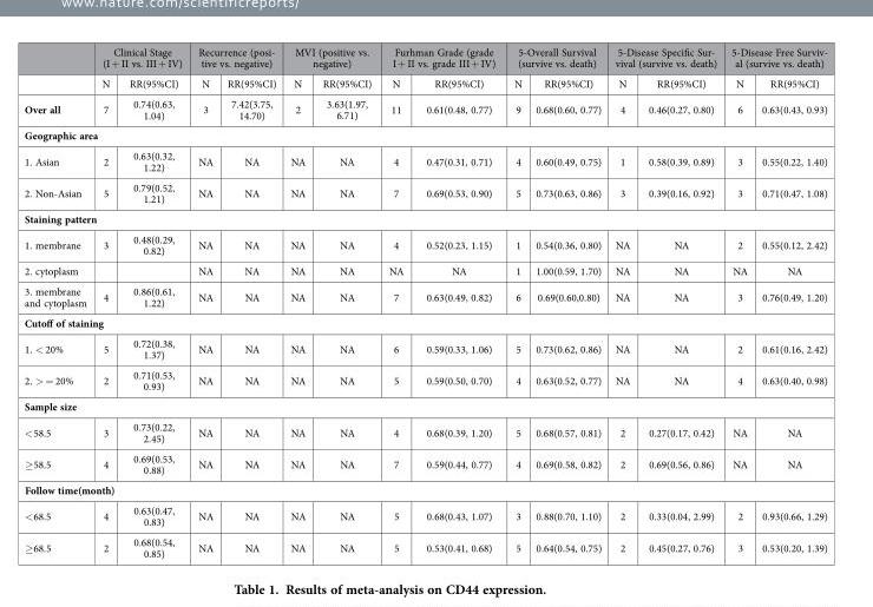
<table><thead><tr><td rowspan="2"></td><td colspan="2">Clinical Stage (I + II vs. III + IV)</td><td colspan="2">Recurrence (posi- tive vs. negative)</td><td colspan="2">MVI (positive vs. negative)</td><td colspan="2">Furhman Grade (grade I + II vs. grade III + IV)</td><td colspan="2">5-Overall Survival (survive vs. death)</td><td colspan="2">5-Disease Specific Sur- vival (survive vs. death)</td><td colspan="2">5-Disease Free Surviv- al (survive vs. death)</td></tr><tr><td>N</td><td>RR(95%CI)</td><td>N</td><td>RR(95%CI)</td><td>N</td><td>RR(95%CI)</td><td>N</td><td>RR(95%CI)</td><td>N</td><td>RR(95%CI)</td><td>N</td><td>RR(95%CI)</td><td>N</td><td>RR(95%CI)</td></tr></thead><tbody><tr><td>Over all</td><td>7</td><td>0.74(0.63, 1.04)</td><td>3</td><td>7.42(3.75, 14.70)</td><td>2</td><td>3.63(1.97, 6.71)</td><td>11</td><td>0.61(0.48, 0.77)</td><td>9</td><td>0.68(0.60, 0.77)</td><td>4</td><td>0.46(0.27, 0.80)</td><td>6</td><td>0.63(0.43, 0.93)</td></tr><tr><td colspan="15">Geographic area</td></tr><tr><td>1. Asian</td><td>2</td><td>0.63(0.32, 1.22)</td><td>NA</td><td>NA</td><td>NA</td><td>NA</td><td>4</td><td>0.47(0.31, 0.71)</td><td>4</td><td>0.60(0.49, 0.75)</td><td>1</td><td>0.58(0.39, 0.89)</td><td>3</td><td>0.55(0.22, 1.40)</td></tr><tr><td>2. Non-Asian</td><td>5</td><td>0.79(0.52, 1.21)</td><td>NA</td><td>NA</td><td>NA</td><td>NA</td><td>7</td><td>0.69(0.53, 0.90)</td><td>5</td><td>0.73(0.63, 0.86)</td><td>3</td><td>0.39(0.16, 0.92)</td><td>3</td><td>0.71(0.47, 1.08)</td></tr><tr><td colspan="15">Staining pattern</td></tr><tr><td>1. membrane</td><td>3</td><td>0.48(0.29, 0.82)</td><td>NA</td><td>NA</td><td>NA</td><td>NA</td><td>4</td><td>0.52(0.23, 1.15)</td><td>1</td><td>0.54(0.36, 0.80)</td><td>NA</td><td>NA</td><td>2</td><td>0.55(0.12, 2.42)</td></tr><tr><td>2. cytoplasm</td><td></td><td></td><td>NA</td><td>NA</td><td>NA</td><td>NA</td><td>NA</td><td>NA</td><td>1</td><td>1.00(0.59, 1.70)</td><td>NA</td><td>NA</td><td>NA</td><td>NA</td></tr><tr><td>3. membrane and cytoplasm</td><td>4</td><td>0.86(0.61, 1.22)</td><td>NA</td><td>NA</td><td>NA</td><td>NA</td><td>7</td><td>0.63(0.49, 0.82)</td><td>6</td><td>0.69(0.60,0.80)</td><td>NA</td><td>NA</td><td>3</td><td>0.76(0.49, 1.20)</td></tr><tr><td colspan="15">Cutoff of staining</td></tr><tr><td>1. &lt; 20%</td><td>5</td><td>0.72(0.38, 1.37)</td><td>NA</td><td>NA</td><td>NA</td><td>NA</td><td>6</td><td>0.59(0.33, 1.06)</td><td>5</td><td>0.73(0.62, 0.86)</td><td>NA</td><td>NA</td><td>2</td><td>0.61(0.16, 2.42)</td></tr><tr><td>2. &gt; = 20%</td><td>2</td><td>0.71(0.53, 0.93)</td><td>NA</td><td>NA</td><td>NA</td><td>NA</td><td>5</td><td>0.59(0.50, 0.70)</td><td>4</td><td>0.63(0.52, 0.77)</td><td>NA</td><td>NA</td><td>4</td><td>0.63(0.40, 0.98)</td></tr><tr><td colspan="15">Sample size</td></tr><tr><td>&lt; 58.5</td><td>3</td><td>0.73(0.22, 2.45)</td><td>NA</td><td>NA</td><td>NA</td><td>NA</td><td>4</td><td>0.68(0.39, 1.20)</td><td>5</td><td>0.68(0.57, 0.81)</td><td>2</td><td>0.27(0.17, 0.42)</td><td>NA</td><td>NA</td></tr><tr><td>≥ 58.5</td><td>4</td><td>0.69(0.53, 0.88)</td><td>NA</td><td>NA</td><td>NA</td><td>NA</td><td>7</td><td>0.59(0.44, 0.77)</td><td>4</td><td>0.69(0.58, 0.82)</td><td>2</td><td>0.69(0.56, 0.86)</td><td>NA</td><td>NA</td></tr><tr><td colspan="15">Follow time(month)</td></tr><tr><td>&lt; 68.5</td><td>4</td><td>0.63(0.47, 0.83)</td><td>NA</td><td>NA</td><td>NA</td><td>NA</td><td>5</td><td>0.68(0.43, 1.07)</td><td>3</td><td>0.88(0.70, 1.10)</td><td>2</td><td>0.33(0.04, 2.99)</td><td>2</td><td>0.93(0.66, 1.29)</td></tr><tr><td>≥ 68.5</td><td>2</td><td>0.68(0.54, 0.85)</td><td>NA</td><td>NA</td><td>NA</td><td>NA</td><td>5</td><td>0.53(0.41, 0.68)</td><td>5</td><td>0.64(0.54, 0.75)</td><td>2</td><td>0.45(0.27, 0.76)</td><td>3</td><td>0.53(0.20, 1.39)</td></tr></tbody></table>